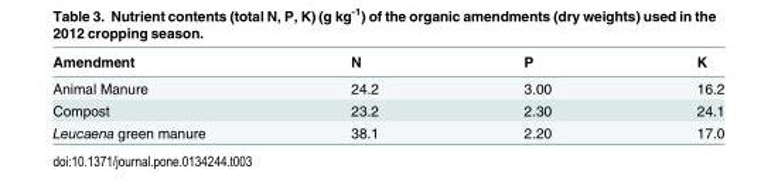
<table><thead><tr><td>Amendment</td><td>N</td><td>P</td><td>K</td></tr></thead><tbody><tr><td>Animal Manure</td><td>24.2</td><td>3.00</td><td>16.2</td></tr><tr><td>Compost</td><td>23.2</td><td>2.30</td><td>24.1</td></tr><tr><td>Leucaena green manure</td><td>38.1</td><td>2.20</td><td>17.0</td></tr></tbody></table>